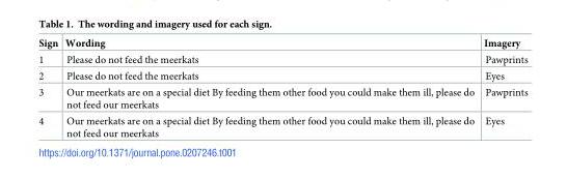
<table><thead><tr><td>Sign</td><td>Wording</td><td>Imagery</td></tr></thead><tbody><tr><td>1</td><td>Please do not feed the meerkats</td><td>Pawprints</td></tr><tr><td>2</td><td>Please do not feed the meerkats</td><td>Eyes</td></tr><tr><td>3</td><td>Our meerkats are on a special diet By feeding them other food you could make them ill, please do not feed our meerkats</td><td>Pawprints</td></tr><tr><td>4</td><td>Our meerkats are on a special diet By feeding them other food you could make them ill, please do not feed our meerkats</td><td>Eyes</td></tr></tbody></table>